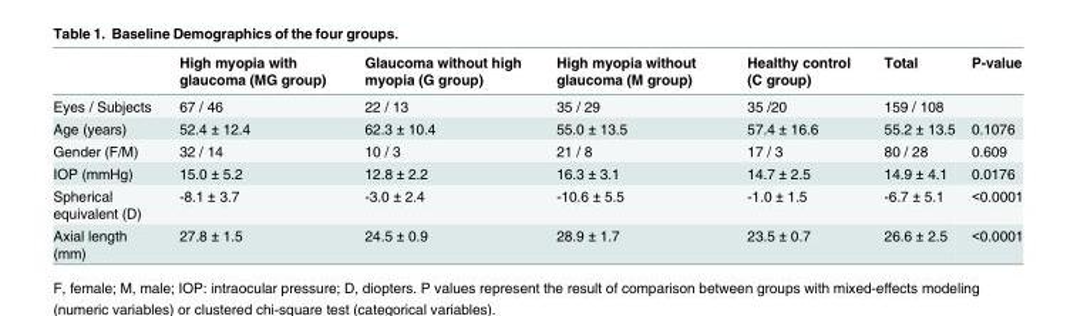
<table><thead><tr><td></td><td>High myopia with glaucoma (MG group)</td><td>Glaucoma without high myopia (G group)</td><td>High myopia without glaucoma (M group)</td><td>Healthy control (C group)</td><td>Total</td><td>P-value</td></tr></thead><tbody><tr><td>Eyes / Subjects</td><td>67 / 46</td><td>22 / 13</td><td>35 / 29</td><td>35 /20</td><td>159 / 108</td><td></td></tr><tr><td>Age (years)</td><td>52.4 ± 12.4</td><td>62.3 ± 10.4</td><td>55.0 ± 13.5</td><td>57.4 ± 16.6</td><td>55.2 ± 13.5</td><td>0.1076</td></tr><tr><td>Gender (F/M)</td><td>32 / 14</td><td>10 / 3</td><td>21 / 8</td><td>17 / 3</td><td>80 / 28</td><td>0.609</td></tr><tr><td>IOP (mmHg)</td><td>15.0 ± 5.2</td><td>12.8 ± 2.2</td><td>16.3 ± 3.1</td><td>14.7 ± 2.5</td><td>14.9 ± 4.1</td><td>0.0176</td></tr><tr><td>Spherical equivalent (D)</td><td>-8.1 ± 3.7</td><td>-3.0 ± 2.4</td><td>-10.6 ± 5.5</td><td>-1.0 ± 1.5</td><td>-6.7 ± 5.1</td><td>&lt;0.0001</td></tr><tr><td>Axial length (mm)</td><td>27.8 ± 1.5</td><td>24.5 ± 0.9</td><td>28.9 ± 1.7</td><td>23.5 ± 0.7</td><td>26.6 ± 2.5</td><td>&lt;0.0001</td></tr></tbody></table>